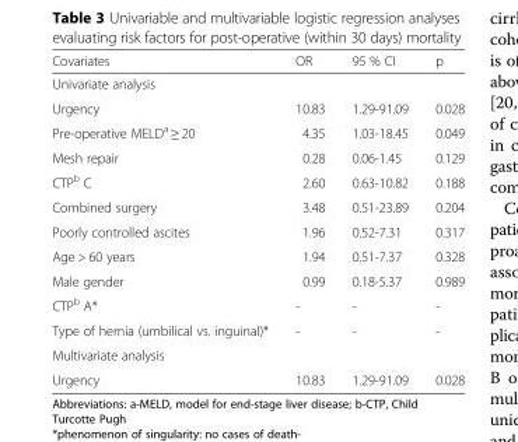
<table><thead><tr><td>Covariates</td><td>OR</td><td>95 % CI</td><td>p</td></tr></thead><tbody><tr><td colspan="4">Univariate analysis</td></tr><tr><td>Urgency</td><td>10.83</td><td>1.29-91.09</td><td>0.028</td></tr><tr><td>Pre-operative MELD<sup>a</sup> ≥ 20</td><td>4.35</td><td>1.03-18.45</td><td>0.049</td></tr><tr><td>Mesh repair</td><td>0.28</td><td>0.06-1.45</td><td>0.129</td></tr><tr><td>CTP<sup>b</sup> C</td><td>2.60</td><td>0.63-10.82</td><td>0.188</td></tr><tr><td>Combined surgery</td><td>3.48</td><td>0.51-23.89</td><td>0.204</td></tr><tr><td>Poorly controlled ascites</td><td>1.96</td><td>0.52-7.31</td><td>0.317</td></tr><tr><td>Age &gt; 60 years</td><td>1.94</td><td>0.51-7.37</td><td>0.328</td></tr><tr><td>Male gender</td><td>0.99</td><td>0.18-5.37</td><td>0.989</td></tr><tr><td>CTP<sup>b</sup> A*</td><td>-</td><td>-</td><td>-</td></tr><tr><td>Type of hernia (umbilical vs. inguinal)*</td><td>-</td><td>-</td><td>-</td></tr><tr><td colspan="4">Multivariate analysis</td></tr><tr><td>Urgency</td><td>10.83</td><td>1.29-91.09</td><td>0.028</td></tr></tbody></table>